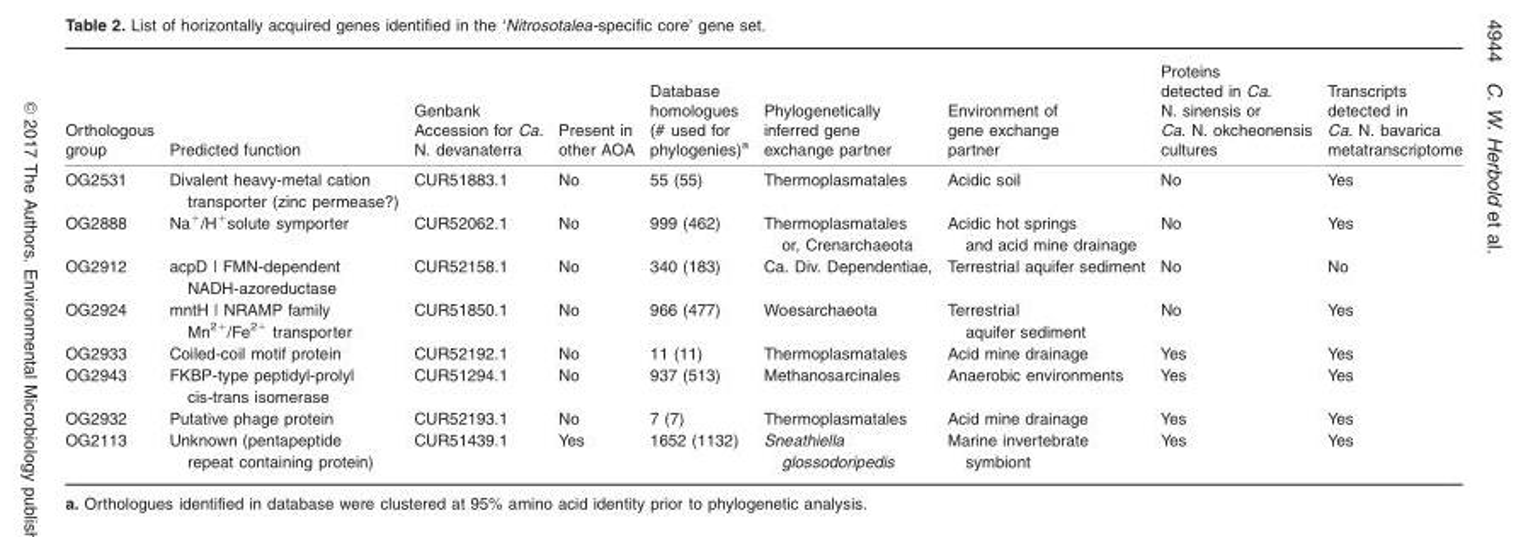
<table><thead><tr><td>Orthologous group</td><td>Predicted function</td><td>Genbank Accession for Ca. N. devanaterra</td><td>Present in other AOA</td><td>Database homologues (# used for phylogenies)<sup>a</sup></td><td>Phylogenetically inferred gene exchange partner</td><td>Environment of gene exchange partner</td><td>Proteins detected in Ca. N. sinensis or Ca. N. okcheonensis cultures</td><td>Transcripts detected in Ca. N. bavarica metatranscriptome</td></tr></thead><tbody><tr><td>OG2531</td><td>Divalent heavy-metal cation transporter (zinc permease?)</td><td>CUR51883.1</td><td>No</td><td>55 (55)</td><td>Thermoplasmatales</td><td>Acidic soil</td><td>No</td><td>Yes</td></tr><tr><td>OG2888</td><td>Na<sup>+</sup>/H<sup>+</sup>solute symporter</td><td>CUR52062.1</td><td>No</td><td>999 (462)</td><td>Thermoplasmatales or, Crenarchaeota</td><td>Acidic hot springs and acid mine drainage</td><td>No</td><td>Yes</td></tr><tr><td>OG2912</td><td>acpD | FMN-dependent NADH-azoreductase</td><td>CUR52158.1</td><td>No</td><td>340 (183)</td><td>Ca. Div. Dependentiae,</td><td>Terrestrial aquifer sediment</td><td>No</td><td>No</td></tr><tr><td>OG2924</td><td>mntH | NRAMP family Mn<sup>2+</sup>/Fe<sup>2+</sup> transporter</td><td>CUR51850.1</td><td>No</td><td>966 (477)</td><td>Woesarchaeota</td><td>Terrestrial aquifer sediment</td><td>No</td><td>Yes</td></tr><tr><td>OG2933</td><td>Coiled-coil motif protein</td><td>CUR52192.1</td><td>No</td><td>11 (11)</td><td>Thermoplasmatales</td><td>Acid mine drainage</td><td>Yes</td><td>Yes</td></tr><tr><td>OG2943</td><td>FKBP-type peptidyl-prolyl cis-trans isomerase</td><td>CUR51294.1</td><td>No</td><td>937 (513)</td><td>Methanosarcinales</td><td>Anaerobic environments</td><td>Yes</td><td>Yes</td></tr><tr><td>OG2932</td><td>Putative phage protein</td><td>CUR52193.1</td><td>No</td><td>7 (7)</td><td>Thermoplasmatales</td><td>Acid mine drainage</td><td>Yes</td><td>Yes</td></tr><tr><td>OG2113</td><td>Unknown (pentapeptide repeat containing protein)</td><td>CUR51439.1</td><td>Yes</td><td>1652 (1132)</td><td>Sneathiella glossodoripedis</td><td>Marine invertebrate symbiont</td><td>Yes</td><td>Yes</td></tr></tbody></table>